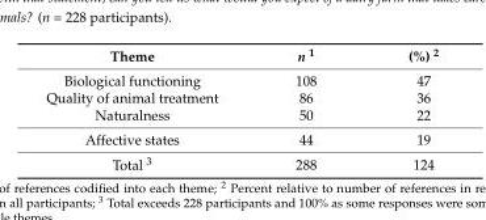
<table><thead><tr><td>Theme</td><td>n <sup>1</sup></td><td>(%) <sup>2</sup></td></tr></thead><tbody><tr><td>Biological functioning</td><td>108</td><td>47</td></tr><tr><td>Quality of animal treatment</td><td>86</td><td>36</td></tr><tr><td>Naturalness</td><td>50</td><td>22</td></tr><tr><td>Affective states</td><td>44</td><td>19</td></tr><tr><td>Total <sup>3</sup></td><td>288</td><td>124</td></tr></tbody></table>